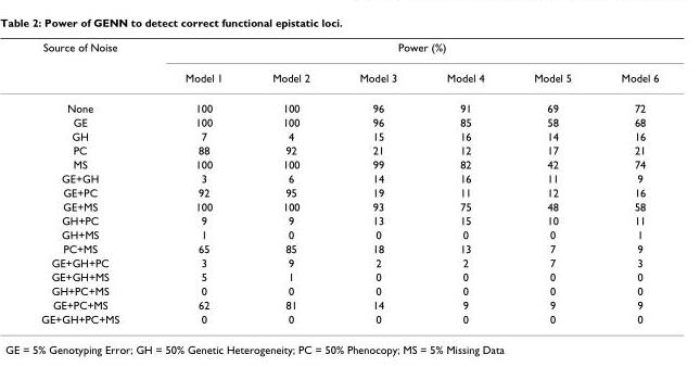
<table><thead><tr><td rowspan="2">Source of Noise</td><td colspan="6">Power (%)</td></tr><tr><td>Model 1</td><td>Model 2</td><td>Model 3</td><td>Model 4</td><td>Model 5</td><td>Model 6</td></tr></thead><tbody><tr><td>None</td><td>100</td><td>100</td><td>96</td><td>91</td><td>69</td><td>72</td></tr><tr><td>GE</td><td>100</td><td>100</td><td>96</td><td>85</td><td>58</td><td>68</td></tr><tr><td>GH</td><td>7</td><td>4</td><td>15</td><td>16</td><td>14</td><td>16</td></tr><tr><td>PC</td><td>88</td><td>92</td><td>21</td><td>12</td><td>17</td><td>21</td></tr><tr><td>MS</td><td>100</td><td>100</td><td>99</td><td>82</td><td>42</td><td>74</td></tr><tr><td>GE+GH</td><td>3</td><td>6</td><td>14</td><td>16</td><td>11</td><td>9</td></tr><tr><td>GE+PC</td><td>92</td><td>95</td><td>19</td><td>11</td><td>12</td><td>16</td></tr><tr><td>GE+MS</td><td>100</td><td>100</td><td>93</td><td>75</td><td>48</td><td>58</td></tr><tr><td>GH+PC</td><td>9</td><td>9</td><td>13</td><td>15</td><td>10</td><td>11</td></tr><tr><td>GH+MS</td><td>1</td><td>0</td><td>0</td><td>0</td><td>0</td><td>1</td></tr><tr><td>PC+MS</td><td>65</td><td>85</td><td>18</td><td>13</td><td>7</td><td>9</td></tr><tr><td>GE+GH+PC</td><td>3</td><td>9</td><td>2</td><td>2</td><td>7</td><td>3</td></tr><tr><td>GE+GH+MS</td><td>5</td><td>1</td><td>0</td><td>0</td><td>0</td><td>0</td></tr><tr><td>GH+PC+MS</td><td>0</td><td>0</td><td>0</td><td>0</td><td>0</td><td>0</td></tr><tr><td>GE+PC+MS</td><td>62</td><td>81</td><td>14</td><td>9</td><td>9</td><td>9</td></tr><tr><td>GE+GH+PC+MS</td><td>0</td><td>0</td><td>0</td><td>0</td><td>0</td><td>0</td></tr></tbody></table>